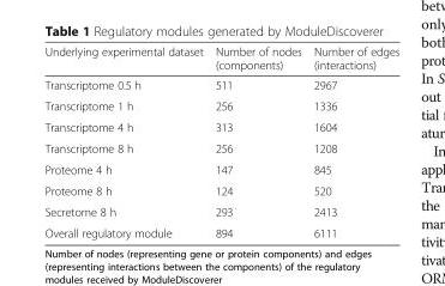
<table><thead><tr><td>Underlying experimental dataset</td><td>Number of nodes (components)</td><td>Number of edges (interactions)</td></tr></thead><tbody><tr><td>Transcriptome 0.5 h</td><td>511</td><td>2967</td></tr><tr><td>Transcriptome 1 h</td><td>256</td><td>1336</td></tr><tr><td>Transcriptome 4 h</td><td>313</td><td>1604</td></tr><tr><td>Transcriptome 8 h</td><td>256</td><td>1208</td></tr><tr><td>Proteome 4 h</td><td>147</td><td>845</td></tr><tr><td>Proteome 8 h</td><td>124</td><td>520</td></tr><tr><td>Secretome 8 h</td><td>293</td><td>2413</td></tr><tr><td>Overall regulatory module</td><td>894</td><td>6111</td></tr></tbody></table>